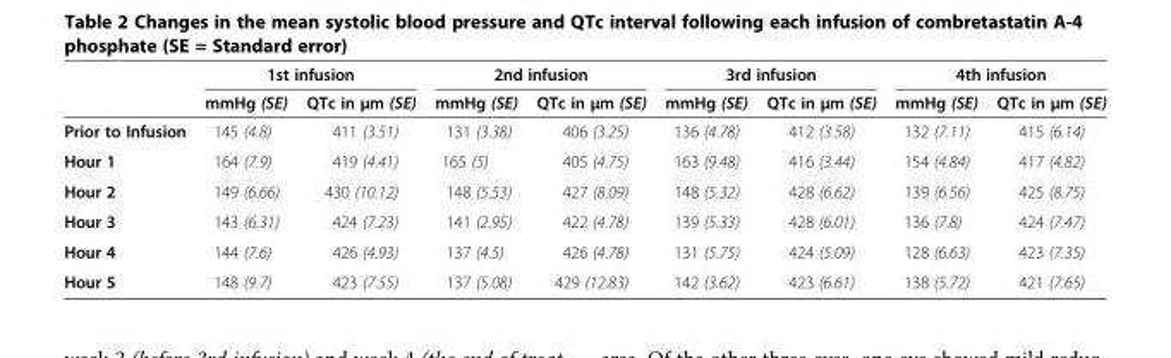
<table><thead><tr><td rowspan="2"></td><td colspan="2">1st infusion</td><td colspan="2">2nd infusion</td><td colspan="2">3rd infusion</td><td colspan="2">4th infusion</td></tr><tr><td>mmHg (SE)</td><td>QTc in μm (SE)</td><td>mmHg (SE)</td><td>QTc in μm (SE)</td><td>mmHg (SE)</td><td>QTc in μm (SE)</td><td>mmHg (SE)</td><td>QTc in μm (SE)</td></tr></thead><tbody><tr><td>Prior to Infusion</td><td>145 (4.8)</td><td>411 (3.51)</td><td>131 (3.38)</td><td>406 (3.25)</td><td>136 (4.78)</td><td>412 (3.58)</td><td>132 (7.11)</td><td>415 (6.14)</td></tr><tr><td>Hour 1</td><td>164 (7.9)</td><td>419 (4.41)</td><td>165 (5)</td><td>405 (4.75)</td><td>163 (9.48)</td><td>416 (3.44)</td><td>154 (4.84)</td><td>417 (4.82)</td></tr><tr><td>Hour 2</td><td>149 (6.66)</td><td>430 (10.12)</td><td>148 (5.53)</td><td>427 (8.09)</td><td>148 (5.32)</td><td>428 (6.62)</td><td>139 (6.56)</td><td>425 (8.75)</td></tr><tr><td>Hour 3</td><td>143 (6.31)</td><td>424 (7.23)</td><td>141 (2.95)</td><td>422 (4.78)</td><td>139 (5.33)</td><td>428 (6.01)</td><td>136 (7.8)</td><td>424 (7.47)</td></tr><tr><td>Hour 4</td><td>144 (7.6)</td><td>426 (4.93)</td><td>137 (4.5)</td><td>426 (4.78)</td><td>131 (5.75)</td><td>424 (5.09)</td><td>128 (6.63)</td><td>423 (7.35)</td></tr><tr><td>Hour 5</td><td>148 (9.7)</td><td>423 (7.55)</td><td>137 (5.08)</td><td>429 (12.83)</td><td>142 (3.62)</td><td>423 (6.61)</td><td>138 (5.72)</td><td>421 (7.65)</td></tr></tbody></table>